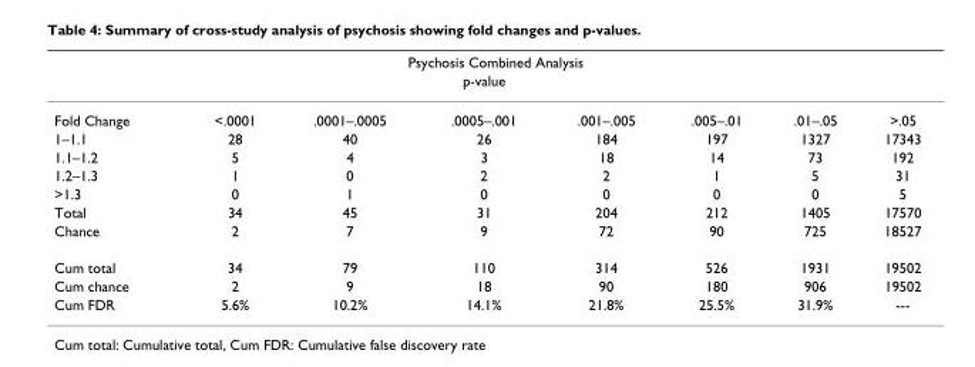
<table><thead><tr><td colspan="8">Psychosis Combined Analysis</td></tr><tr><td></td><td></td><td></td><td>p-value</td><td></td><td></td><td></td><td></td></tr></thead><tbody><tr><td>Fold Change</td><td>&lt;.0001</td><td>.0001–.0005</td><td>.0005–.001</td><td>.001–.005</td><td>.005–.01</td><td>.01–.05</td><td>&gt;.05</td></tr><tr><td>1–1.1</td><td>28</td><td>40</td><td>26</td><td>184</td><td>197</td><td>1327</td><td>17343</td></tr><tr><td>1.1–1.2</td><td>5</td><td>4</td><td>3</td><td>18</td><td>14</td><td>73</td><td>192</td></tr><tr><td>1.2–1.3</td><td>1</td><td>0</td><td>2</td><td>2</td><td>1</td><td>5</td><td>31</td></tr><tr><td>&gt;1.3</td><td>0</td><td>1</td><td>0</td><td>0</td><td>0</td><td>0</td><td>5</td></tr><tr><td>Total</td><td>34</td><td>45</td><td>31</td><td>204</td><td>212</td><td>1405</td><td>17570</td></tr><tr><td>Chance</td><td>2</td><td>7</td><td>9</td><td>72</td><td>90</td><td>725</td><td>18527</td></tr><tr><td>Cum total</td><td>34</td><td>79</td><td>110</td><td>314</td><td>526</td><td>1931</td><td>19502</td></tr><tr><td>Cum chance</td><td>2</td><td>9</td><td>18</td><td>90</td><td>180</td><td>906</td><td>19502</td></tr><tr><td>Cum FDR</td><td>5.6%</td><td>10.2%</td><td>14.1%</td><td>21.8%</td><td>25.5%</td><td>31.9%</td><td>---</td></tr></tbody></table>